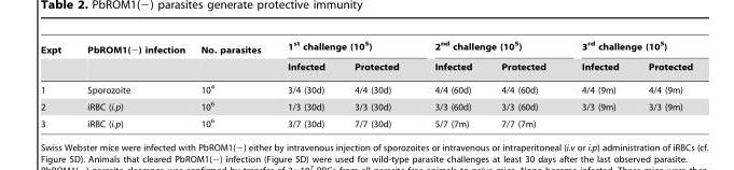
<table><thead><tr><td rowspan="2">Expt</td><td rowspan="2">PbROM1(−) infection</td><td rowspan="2">No. parasites</td><td colspan="2">1<sup>st</sup> challenge (10<sup>5</sup>)</td><td colspan="2">2<sup>nd</sup> challenge (10<sup>5</sup>)</td><td colspan="2">3<sup>rd</sup> challenge (10<sup>5</sup>)</td></tr><tr><td>Infected</td><td>Protected</td><td>Infected</td><td>Protected</td><td>Infected</td><td>Protected</td></tr></thead><tbody><tr><td>1</td><td>Sporozoite</td><td>10<sup>4</sup></td><td>3/4 (30d)</td><td>4/4 (30d)</td><td>4/4 (60d)</td><td>4/4 (60d)</td><td>4/4 (9m)</td><td>4/4 (9m)</td></tr><tr><td>2</td><td>iRBC (i.p)</td><td>10<sup>6</sup></td><td>1/3 (30d)</td><td>3/3 (30d)</td><td>3/3 (60d)</td><td>3/3 (60d)</td><td>3/3 (9m)</td><td>3/3 (9m)</td></tr><tr><td>3</td><td>iRBC (i.p)</td><td>10<sup>6</sup></td><td>3/7 (30d)</td><td>7/7 (30d)</td><td>5/7 (7m)</td><td>7/7 (7m)</td><td></td><td></td></tr></tbody></table>